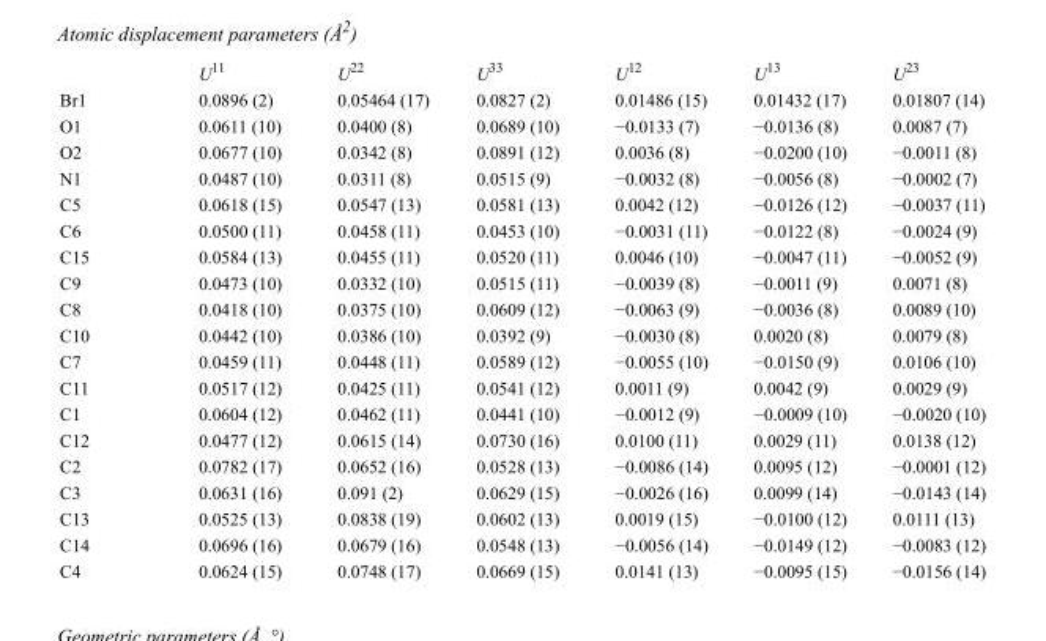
<table><thead><tr><td></td><td>U<sup>11</sup></td><td>U<sup>22</sup></td><td>U<sup>33</sup></td><td>U<sup>12</sup></td><td>U<sup>13</sup></td><td>U<sup>23</sup></td></tr></thead><tbody><tr><td>Br1</td><td>0.0896 (2)</td><td>0.05464 (17)</td><td>0.0827 (2)</td><td>0.01486 (15)</td><td>0.01432 (17)</td><td>0.01807 (14)</td></tr><tr><td>O1</td><td>0.0611 (10)</td><td>0.0400 (8)</td><td>0.0689 (10)</td><td>−0.0133 (7)</td><td>−0.0136 (8)</td><td>0.0087 (7)</td></tr><tr><td>O2</td><td>0.0677 (10)</td><td>0.0342 (8)</td><td>0.0891 (12)</td><td>0.0036 (8)</td><td>−0.0200 (10)</td><td>−0.0011 (8)</td></tr><tr><td>N1</td><td>0.0487 (10)</td><td>0.0311 (8)</td><td>0.0515 (9)</td><td>−0.0032 (8)</td><td>−0.0056 (8)</td><td>−0.0002 (7)</td></tr><tr><td>C5</td><td>0.0618 (15)</td><td>0.0547 (13)</td><td>0.0581 (13)</td><td>0.0042 (12)</td><td>−0.0126 (12)</td><td>−0.0037 (11)</td></tr><tr><td>C6</td><td>0.0500 (11)</td><td>0.0458 (11)</td><td>0.0453 (10)</td><td>−0.0031 (11)</td><td>−0.0122 (8)</td><td>−0.0024 (9)</td></tr><tr><td>C15</td><td>0.0584 (13)</td><td>0.0455 (11)</td><td>0.0520 (11)</td><td>0.0046 (10)</td><td>−0.0047 (11)</td><td>−0.0052 (9)</td></tr><tr><td>C9</td><td>0.0473 (10)</td><td>0.0332 (10)</td><td>0.0515 (11)</td><td>−0.0039 (8)</td><td>−0.0011 (9)</td><td>0.0071 (8)</td></tr><tr><td>C8</td><td>0.0418 (10)</td><td>0.0375 (10)</td><td>0.0609 (12)</td><td>−0.0063 (9)</td><td>−0.0036 (8)</td><td>0.0089 (10)</td></tr><tr><td>C10</td><td>0.0442 (10)</td><td>0.0386 (10)</td><td>0.0392 (9)</td><td>−0.0030 (8)</td><td>0.0020 (8)</td><td>0.0079 (8)</td></tr><tr><td>C7</td><td>0.0459 (11)</td><td>0.0448 (11)</td><td>0.0589 (12)</td><td>−0.0055 (10)</td><td>−0.0150 (9)</td><td>0.0106 (10)</td></tr><tr><td>C11</td><td>0.0517 (12)</td><td>0.0425 (11)</td><td>0.0541 (12)</td><td>0.0011 (9)</td><td>0.0042 (9)</td><td>0.0029 (9)</td></tr><tr><td>C1</td><td>0.0604 (12)</td><td>0.0462 (11)</td><td>0.0441 (10)</td><td>−0.0012 (9)</td><td>−0.0009 (10)</td><td>−0.0020 (10)</td></tr><tr><td>C12</td><td>0.0477 (12)</td><td>0.0615 (14)</td><td>0.0730 (16)</td><td>0.0100 (11)</td><td>0.0029 (11)</td><td>0.0138 (12)</td></tr><tr><td>C2</td><td>0.0782 (17)</td><td>0.0652 (16)</td><td>0.0528 (13)</td><td>−0.0086 (14)</td><td>0.0095 (12)</td><td>−0.0001 (12)</td></tr><tr><td>C3</td><td>0.0631 (16)</td><td>0.091 (2)</td><td>0.0629 (15)</td><td>−0.0026 (16)</td><td>0.0099 (14)</td><td>−0.0143 (14)</td></tr><tr><td>C13</td><td>0.0525 (13)</td><td>0.0838 (19)</td><td>0.0602 (13)</td><td>0.0019 (15)</td><td>−0.0100 (12)</td><td>0.0111 (13)</td></tr><tr><td>C14</td><td>0.0696 (16)</td><td>0.0679 (16)</td><td>0.0548 (13)</td><td>−0.0056 (14)</td><td>−0.0149 (12)</td><td>−0.0083 (12)</td></tr><tr><td>C4</td><td>0.0624 (15)</td><td>0.0748 (17)</td><td>0.0669 (15)</td><td>0.0141 (13)</td><td>−0.0095 (15)</td><td>−0.0156 (14)</td></tr></tbody></table>